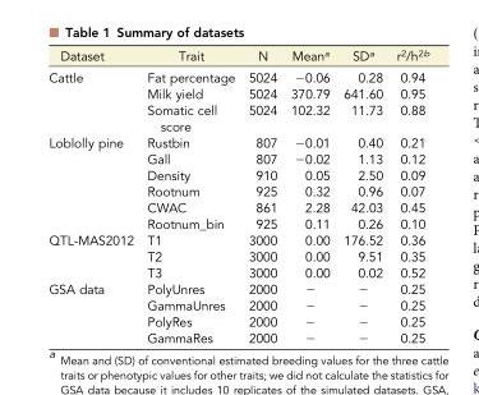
<table><thead><tr><td>Dataset</td><td>Trait</td><td>N</td><td>Mean<sup>a</sup></td><td>SD<sup>a</sup></td><td>r<sup>2</sup>/h<sup>2b</sup></td></tr></thead><tbody><tr><td rowspan="3">Cattle</td><td>Fat percentage</td><td>5024</td><td>−0.06</td><td>0.28</td><td>0.94</td></tr><tr><td>Milk yield</td><td>5024</td><td>370.79</td><td>641.60</td><td>0.95</td></tr><tr><td>Somatic cell score</td><td>5024</td><td>102.32</td><td>11.73</td><td>0.88</td></tr><tr><td rowspan="6">Loblolly pine</td><td>Rustbin</td><td>807</td><td>−0.01</td><td>0.40</td><td>0.21</td></tr><tr><td>Gall</td><td>807</td><td>−0.02</td><td>1.13</td><td>0.12</td></tr><tr><td>Density</td><td>910</td><td>0.05</td><td>2.50</td><td>0.09</td></tr><tr><td>Rootnum</td><td>925</td><td>0.32</td><td>0.96</td><td>0.07</td></tr><tr><td>CWAC</td><td>861</td><td>2.28</td><td>42.03</td><td>0.45</td></tr><tr><td>Rootnum_bin</td><td>925</td><td>0.11</td><td>0.26</td><td>0.10</td></tr><tr><td rowspan="3">QTL-MAS2012</td><td>T1</td><td>3000</td><td>0.00</td><td>176.52</td><td>0.36</td></tr><tr><td>T2</td><td>3000</td><td>0.00</td><td>9.51</td><td>0.35</td></tr><tr><td>T3</td><td>3000</td><td>0.00</td><td>0.02</td><td>0.52</td></tr><tr><td rowspan="4">GSA data</td><td>PolyUnres</td><td>2000</td><td>−</td><td>−</td><td>0.25</td></tr><tr><td>GammaUnres</td><td>2000</td><td>−</td><td>−</td><td>0.25</td></tr><tr><td>PolyRes</td><td>2000</td><td>−</td><td>−</td><td>0.25</td></tr><tr><td>GammaRes</td><td>2000</td><td>−</td><td>−</td><td>0.25</td></tr></tbody></table>